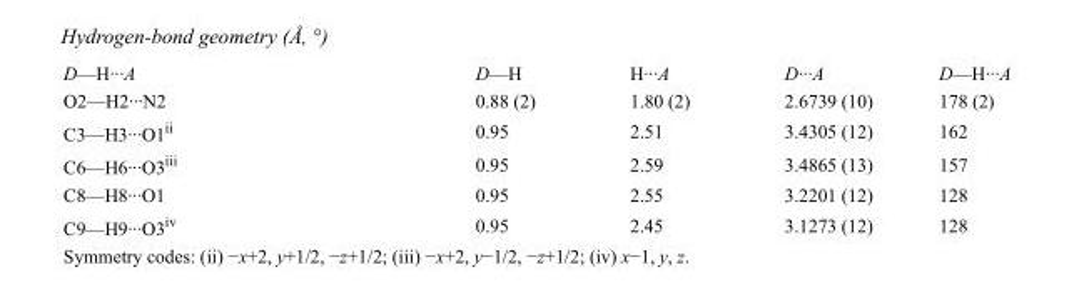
<table><tbody><tr><td>D—H···A</td><td>D—H</td><td>H···A</td><td>D···A</td><td>D—H···A</td></tr><tr><td>O2—H2···N2</td><td>0.88 (2)</td><td>1.80 (2)</td><td>2.6739 (10)</td><td>178 (2)</td></tr><tr><td>C3—H3···O1<sup>ii</sup></td><td>0.95</td><td>2.51</td><td>3.4305 (12)</td><td>162</td></tr><tr><td>C6—H6···O3<sup>iii</sup></td><td>0.95</td><td>2.59</td><td>3.4865 (13)</td><td>157</td></tr><tr><td>C8—H8···O1</td><td>0.95</td><td>2.55</td><td>3.2201 (12)</td><td>128</td></tr><tr><td>C9—H9···O3<sup>iv</sup></td><td>0.95</td><td>2.45</td><td>3.1273 (12)</td><td>128</td></tr></tbody></table>